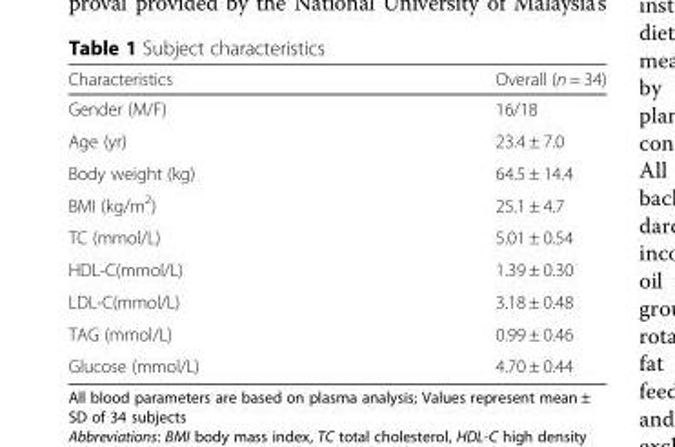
<table><thead><tr><td>Characteristics</td><td>Overall (n = 34)</td></tr></thead><tbody><tr><td>Gender (M/F)</td><td>16/18</td></tr><tr><td>Age (yr)</td><td>23.4 ± 7.0</td></tr><tr><td>Body weight (kg)</td><td>64.5 ± 14.4</td></tr><tr><td>BMI (kg/m<sup>2</sup>)</td><td>25.1 ± 4.7</td></tr><tr><td>TC (mmol/L)</td><td>5.01 ± 0.54</td></tr><tr><td>HDL-C(mmol/L)</td><td>1.39 ± 0.30</td></tr><tr><td>LDL-C(mmol/L)</td><td>3.18 ± 0.48</td></tr><tr><td>TAG (mmol/L)</td><td>0.99 ± 0.46</td></tr><tr><td>Glucose (mmol/L)</td><td>4.70 ± 0.44</td></tr></tbody></table>